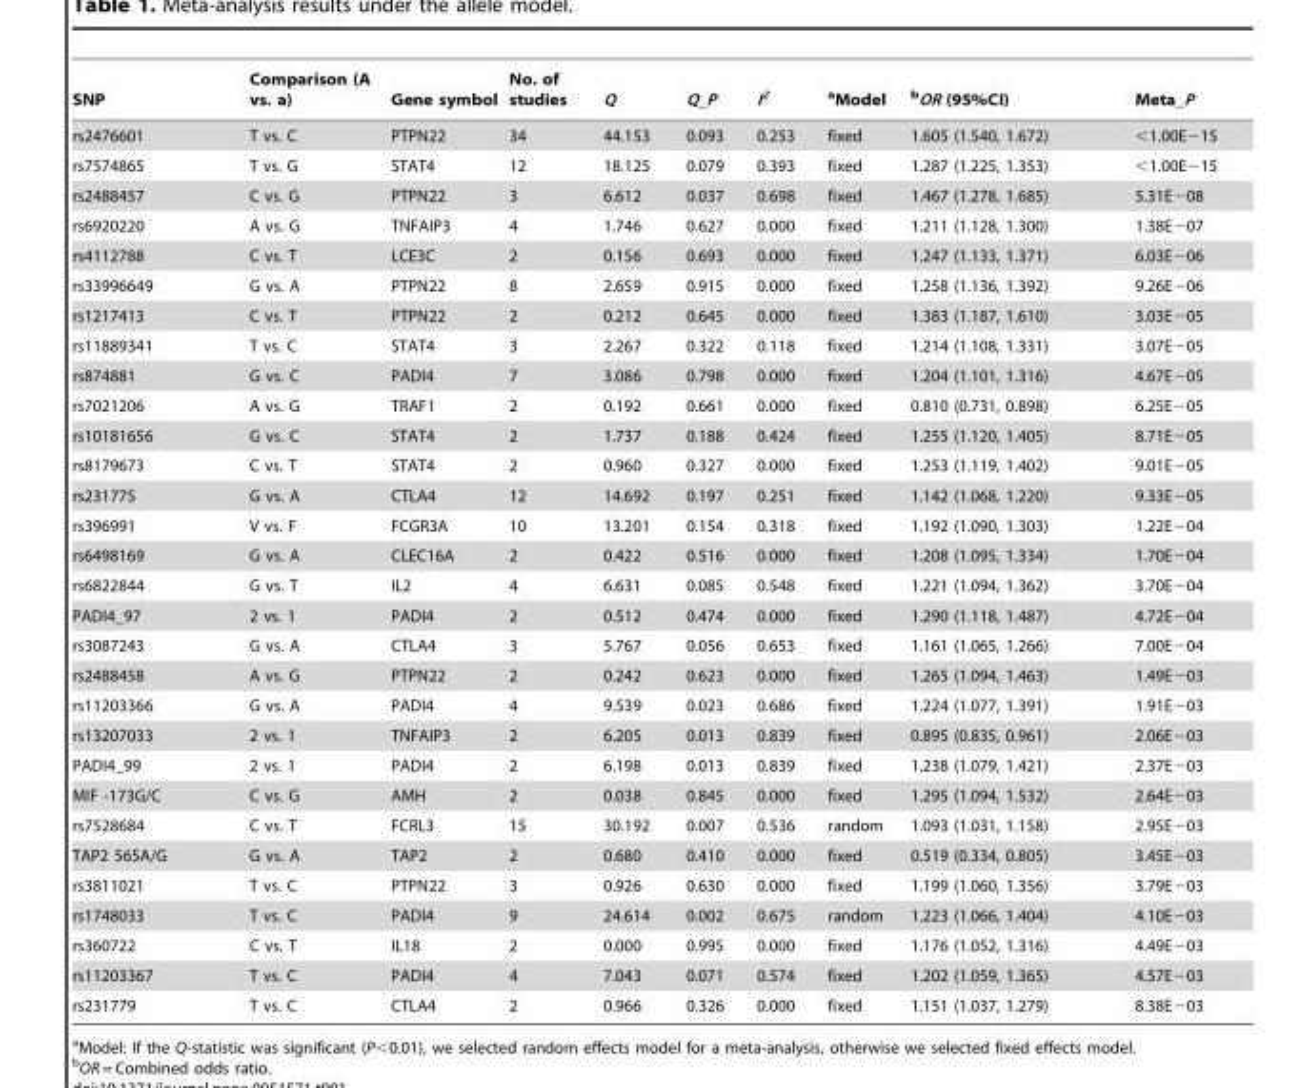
<table><thead><tr><td>SNP</td><td>Comparison (A vs. a)</td><td>Gene symbol</td><td>No. of studies</td><td>Q</td><td>Q_P</td><td>I<sup>2</sup></td><td>aModel</td><td>bOR (95%CI)</td><td>Meta_P</td></tr></thead><tbody><tr><td>rs2476601</td><td>T vs. C</td><td>PTPN22</td><td>34</td><td>44.153</td><td>0.093</td><td>0.253</td><td>fixed</td><td>1.605 (1.540, 1.672)</td><td>&lt;1.00E−15</td></tr><tr><td>rs7574865</td><td>T vs. G</td><td>STAT4</td><td>12</td><td>18.125</td><td>0.079</td><td>0.393</td><td>fixed</td><td>1.287 (1.225, 1.353)</td><td>&lt;1.00E−15</td></tr><tr><td>rs2488457</td><td>C vs. G</td><td>PTPN22</td><td>3</td><td>6.612</td><td>0.037</td><td>0.698</td><td>fixed</td><td>1.467 (1.278, 1.685)</td><td>5.31E−08</td></tr><tr><td>rs6920220</td><td>A vs. G</td><td>TNFAIP3</td><td>4</td><td>1.746</td><td>0.627</td><td>0.000</td><td>fixed</td><td>1.211 (1.128, 1.300)</td><td>1.38E−07</td></tr><tr><td>rs4112788</td><td>C vs. T</td><td>LCE3C</td><td>2</td><td>0.156</td><td>0.693</td><td>0.000</td><td>fixed</td><td>1.247 (1.133, 1.371)</td><td>6.03E−06</td></tr><tr><td>rs33996649</td><td>G vs. A</td><td>PTPN22</td><td>8</td><td>2.659</td><td>0.915</td><td>0.000</td><td>fixed</td><td>1.258 (1.136, 1.392)</td><td>9.26E−06</td></tr><tr><td>rs1217413</td><td>C vs. T</td><td>PTPN22</td><td>2</td><td>0.212</td><td>0.645</td><td>0.000</td><td>fixed</td><td>1.383 (1.187, 1.610)</td><td>3.03E−05</td></tr><tr><td>rs11889341</td><td>T vs. C</td><td>STAT4</td><td>3</td><td>2.267</td><td>0.322</td><td>0.118</td><td>fixed</td><td>1.214 (1.108, 1.331)</td><td>3.07E−05</td></tr><tr><td>rs874881</td><td>G vs. C</td><td>PADI4</td><td>7</td><td>3.086</td><td>0.798</td><td>0.000</td><td>fixed</td><td>1.204 (1.101, 1.316)</td><td>4.67E−05</td></tr><tr><td>rs7021206</td><td>A vs. G</td><td>TRAF1</td><td>2</td><td>0.192</td><td>0.661</td><td>0.000</td><td>fixed</td><td>0.810 (0.731, 0.898)</td><td>6.25E−05</td></tr><tr><td>rs10181656</td><td>G vs. C</td><td>STAT4</td><td>2</td><td>1.737</td><td>0.188</td><td>0.424</td><td>fixed</td><td>1.255 (1.120, 1.405)</td><td>8.71E−05</td></tr><tr><td>rs8179673</td><td>C vs. T</td><td>STAT4</td><td>2</td><td>0.960</td><td>0.327</td><td>0.000</td><td>fixed</td><td>1.253 (1.119, 1.402)</td><td>9.01E−05</td></tr><tr><td>rs231775</td><td>G vs. A</td><td>CTLA4</td><td>12</td><td>14.692</td><td>0.197</td><td>0.251</td><td>fixed</td><td>1.142 (1.068, 1.220)</td><td>9.33E−05</td></tr><tr><td>rs396991</td><td>V vs. F</td><td>FCGR3A</td><td>10</td><td>13.201</td><td>0.154</td><td>0.318</td><td>fixed</td><td>1.192 (1.090, 1.303)</td><td>1.22E−04</td></tr><tr><td>rs6498169</td><td>G vs. A</td><td>CLEC16A</td><td>2</td><td>0.422</td><td>0.516</td><td>0.000</td><td>fixed</td><td>1.208 (1.095, 1.334)</td><td>1.70E−04</td></tr><tr><td>rs6822844</td><td>G vs. T</td><td>IL2</td><td>4</td><td>6.631</td><td>0.085</td><td>0.548</td><td>fixed</td><td>1.221 (1.094, 1.362)</td><td>3.70E−04</td></tr><tr><td>PADI4_97</td><td>2 vs. 1</td><td>PADI4</td><td>2</td><td>0.512</td><td>0.474</td><td>0.000</td><td>fixed</td><td>1.290 (1.118, 1.487)</td><td>4.72E−04</td></tr><tr><td>rs3087243</td><td>G vs. A</td><td>CTLA4</td><td>3</td><td>5.767</td><td>0.056</td><td>0.653</td><td>fixed</td><td>1.161 (1.065, 1.266)</td><td>7.00E−04</td></tr><tr><td>rs2488458</td><td>A vs. G</td><td>PTPN22</td><td>2</td><td>0.242</td><td>0.623</td><td>0.000</td><td>fixed</td><td>1.265 (1.094, 1.463)</td><td>1.49E−03</td></tr><tr><td>rs11203366</td><td>G vs. A</td><td>PADI4</td><td>4</td><td>9.539</td><td>0.023</td><td>0.686</td><td>fixed</td><td>1.224 (1.077, 1.391)</td><td>1.91E−03</td></tr><tr><td>rs13207033</td><td>2 vs. 1</td><td>TNFAIP3</td><td>2</td><td>6.205</td><td>0.013</td><td>0.839</td><td>fixed</td><td>0.895 (0.835, 0.961)</td><td>2.06E−03</td></tr><tr><td>PADI4_99</td><td>2 vs. 1</td><td>PADI4</td><td>2</td><td>6.198</td><td>0.013</td><td>0.839</td><td>fixed</td><td>1.238 (1.079, 1.421)</td><td>2.37E−03</td></tr><tr><td>MIF -173G/C</td><td>C vs. G</td><td>AMH</td><td>2</td><td>0.038</td><td>0.845</td><td>0.000</td><td>fixed</td><td>1.295 (1.094, 1.532)</td><td>2.64E−03</td></tr><tr><td>rs7528684</td><td>C vs. T</td><td>FCRL3</td><td>15</td><td>30.192</td><td>0.007</td><td>0.536</td><td>random</td><td>1.093 (1.031, 1.158)</td><td>2.95E−03</td></tr><tr><td>TAP2 565A/G</td><td>G vs. A</td><td>TAP2</td><td>2</td><td>0.680</td><td>0.410</td><td>0.000</td><td>fixed</td><td>0.519 (0.334, 0.805)</td><td>3.45E−03</td></tr><tr><td>rs3811021</td><td>T vs. C</td><td>PTPN22</td><td>3</td><td>0.926</td><td>0.630</td><td>0.000</td><td>fixed</td><td>1.199 (1.060, 1.356)</td><td>3.79E−03</td></tr><tr><td>rs1748033</td><td>T vs. C</td><td>PADI4</td><td>9</td><td>24.614</td><td>0.002</td><td>0.675</td><td>random</td><td>1.223 (1.066, 1.404)</td><td>4.10E−03</td></tr><tr><td>rs360722</td><td>C vs. T</td><td>IL18</td><td>2</td><td>0.000</td><td>0.995</td><td>0.000</td><td>fixed</td><td>1.176 (1.052, 1.316)</td><td>4.49E−03</td></tr><tr><td>rs11203367</td><td>T vs. C</td><td>PADI4</td><td>4</td><td>7.043</td><td>0.071</td><td>0.574</td><td>fixed</td><td>1.202 (1.059, 1.365)</td><td>4.57E−03</td></tr><tr><td>rs231779</td><td>T vs. C</td><td>CTLA4</td><td>2</td><td>0.966</td><td>0.326</td><td>0.000</td><td>fixed</td><td>1.151 (1.037, 1.279)</td><td>8.38E−03</td></tr></tbody></table>